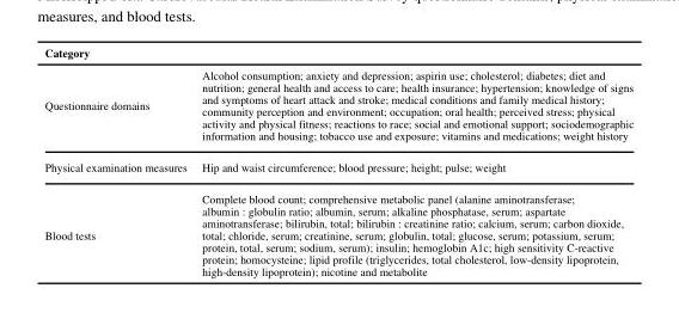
<table><thead><tr><td colspan="2">Category</td></tr><tr><td>Questionnaire domains</td><td>Alcohol consumption; anxiety and depression; aspirin use; cholesterol; diabetes; diet and nutrition; general health and access to care; health insurance; hypertension; knowledge of signs and symptoms of heart attack and stroke; medical conditions and family medical history; community perception and environment; occupation; oral health; perceived stress; physical activity and physical fitness; reactions to race; social and emotional support; sociodemographic information and housing; tobacco use and exposure; vitamins and medications; weight history</td></tr></thead><tbody><tr><td>Physical examination measures</td><td>Hip and waist circumference; blood pressure; height; pulse; weight</td></tr><tr><td>Blood tests</td><td>Complete blood count; comprehensive metabolic panel (alanine aminotransferase; albumin : globulin ratio; albumin, serum; alkaline phosphatase, serum; aspartate aminotransferase; bilirubin, total; bilirubin : creatinine ratio; calcium, serum; carbon dioxide, total; chloride, serum; creatinine, serum; globulin, total; glucose, serum; potassium, serum; protein, total, serum; sodium, serum); insulin; hemoglobin A1c; high sensitivity C-reactive protein; homocysteine; lipid profile (triglycerides, total cholesterol, low-density lipoprotein, high-density lipoprotein); nicotine and metabolite</td></tr></tbody></table>